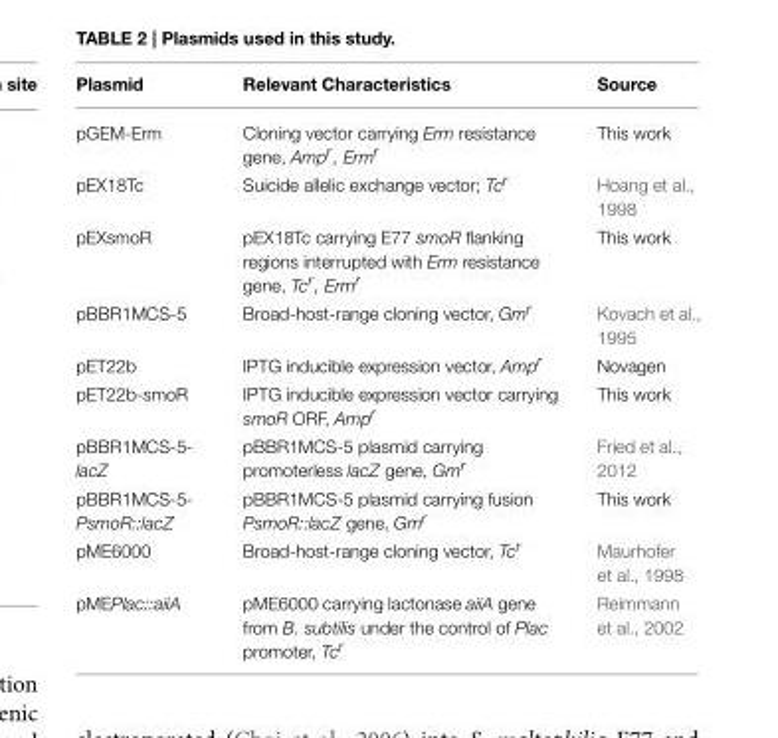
<table><thead><tr><td>Plasmid</td><td>Relevant Characteristics</td><td>Source</td></tr></thead><tbody><tr><td>pGEM-Erm</td><td>Cloning vector carrying Erm resistance gene, Amp<sup>r</sup>, Erm<sup>r</sup></td><td>This work</td></tr><tr><td>pEX18Tc</td><td>Suicide allelic exchange vector; Tc<sup>r</sup></td><td>Hoang et al., 1998</td></tr><tr><td>pEXsmoR</td><td>pEX18Tc carrying E77 smoR flanking regions interrupted with Erm resistance gene, Tc<sup>r</sup>, Erm<sup>r</sup></td><td>This work</td></tr><tr><td>pBBR1MCS-5</td><td>Broad-host-range cloning vector, Gm<sup>r</sup></td><td>Kovach et al., 1995</td></tr><tr><td>pET22b</td><td>IPTG inducible expression vector, Amp<sup>r</sup></td><td>Novagen</td></tr><tr><td>pET22b-smoR</td><td>IPTG inducible expression vector carrying smoR ORF, Amp<sup>r</sup></td><td>This work</td></tr><tr><td>pBBR1MCS-5- lacZ</td><td>pBBR1MCS-5 plasmid carrying promoterless lacZ gene, Gm<sup>r</sup></td><td>Fried et al., 2012</td></tr><tr><td>pBBR1MCS-5- PsmoR::lacZ</td><td>pBBR1MCS-5 plasmid carrying fusion PsmoR::lacZ gene, Gm<sup>r</sup></td><td>This work</td></tr><tr><td>pME6000</td><td>Broad-host-range cloning vector, Tc<sup>r</sup></td><td>Maurhofer et al., 1998</td></tr><tr><td>pMEPlac::aiiA</td><td>pME6000 carrying lactonase aiiA gene from B. subtilis under the control of Plac promoter, Tc<sup>r</sup></td><td>Reimmann et al., 2002</td></tr></tbody></table>